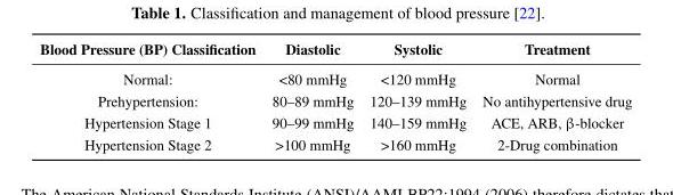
<table><thead><tr><td>Blood Pressure (BP) Classification</td><td>Diastolic</td><td>Systolic</td><td>Treatment</td></tr></thead><tbody><tr><td>Normal:</td><td>&lt;80 mmHg</td><td>&lt;120 mmHg</td><td>Normal</td></tr><tr><td>Prehypertension:</td><td>80–89 mmHg</td><td>120–139 mmHg</td><td>No antihypertensive drug</td></tr><tr><td>Hypertension Stage 1</td><td>90–99 mmHg</td><td>140–159 mmHg</td><td>ACE, ARB, β-blocker</td></tr><tr><td>Hypertension Stage 2</td><td>&gt;100 mmHg</td><td>&gt;160 mmHg</td><td>2-Drug combination</td></tr></tbody></table>